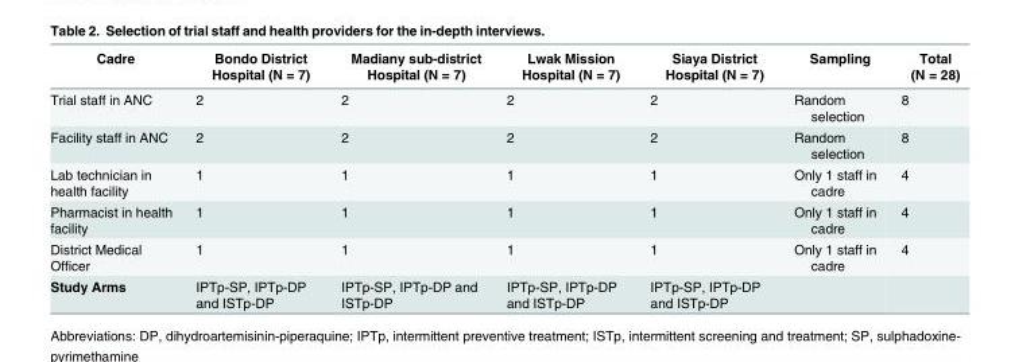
<table><thead><tr><td>Cadre</td><td>Bondo District Hospital (N = 7)</td><td>Madiany sub-district Hospital (N = 7)</td><td>Lwak Mission Hospital (N = 7)</td><td>Siaya District Hospital (N = 7)</td><td>Sampling</td><td>Total (N = 28)</td></tr></thead><tbody><tr><td>Trial staff in ANC</td><td>2</td><td>2</td><td>2</td><td>2</td><td>Random selection</td><td>8</td></tr><tr><td>Facility staff in ANC</td><td>2</td><td>2</td><td>2</td><td>2</td><td>Random selection</td><td>8</td></tr><tr><td>Lab technician in health facility</td><td>1</td><td>1</td><td>1</td><td>1</td><td>Only 1 staff in cadre</td><td>4</td></tr><tr><td>Pharmacist in health facility</td><td>1</td><td>1</td><td>1</td><td>1</td><td>Only 1 staff in cadre</td><td>4</td></tr><tr><td>District Medical Officer</td><td>1</td><td>1</td><td>1</td><td>1</td><td>Only 1 staff in cadre</td><td>4</td></tr><tr><td>Study Arms</td><td>IPTp-SP, IPTp-DP and ISTp-DP</td><td>IPTp-SP, IPTp-DP and ISTp-DP</td><td>IPTp-SP, IPTp-DP and ISTp-DP</td><td>IPTp-SP, IPTp-DP and ISTp-DP</td><td></td><td></td></tr></tbody></table>